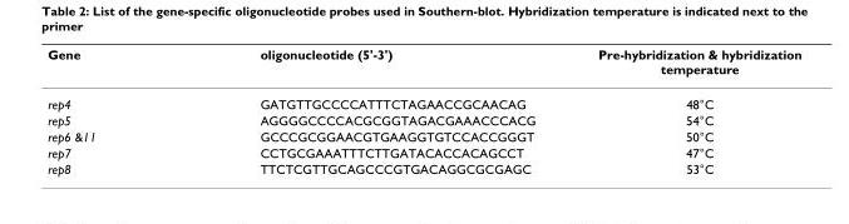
<table><thead><tr><td>Gene</td><td>oligonucleotide (5&#x27;-3&#x27;)</td><td>Pre-hybridization &amp; hybridization temperature</td></tr></thead><tbody><tr><td>rep4</td><td>GATGTTGCCCCATTTCTAGAACCGCAACAG</td><td>48°C</td></tr><tr><td>rep5</td><td>AGGGGCCCCACGCGGTAGACGAAACCCACG</td><td>54°C</td></tr><tr><td>rep6 &amp;11</td><td>GCCCGCGGAACGTGAAGGTGTCCACCGGGT</td><td>50°C</td></tr><tr><td>rep7</td><td>CCTGCGAAATTTCTTGATACACCACAGCCT</td><td>47°C</td></tr><tr><td>rep8</td><td>TTCTCGTTGCAGCCCGTGACAGGCGCGAGC</td><td>53°C</td></tr></tbody></table>